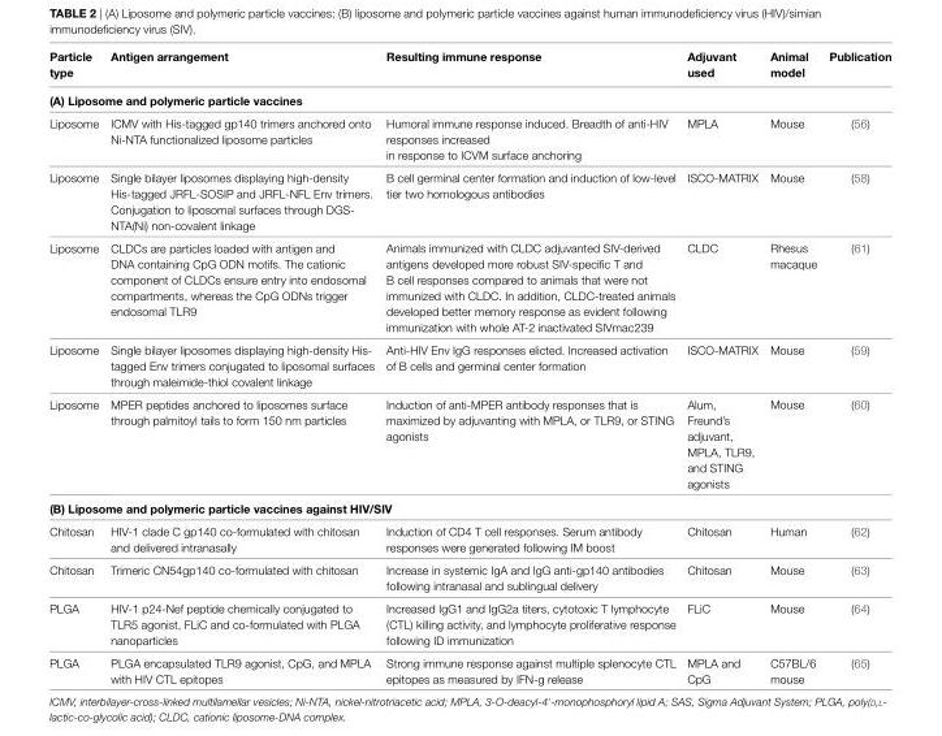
<table><thead><tr><td>Particle type</td><td>Antigen arrangement</td><td>Resulting immune response</td><td>Adjuvant used</td><td>Animal model</td><td>Publication</td></tr></thead><tbody><tr><td colspan="6">(A) Liposome and polymeric particle vaccines</td></tr><tr><td>Liposome</td><td>ICMV with His-tagged gp140 trimers anchored onto Ni-NTA functionalized liposome particles</td><td>Humoral immune response induced. Breadth of anti-HIV responses increased in response to ICVM surface anchoring</td><td>MPLA</td><td>Mouse</td><td>(56)</td></tr><tr><td>Liposome</td><td>Single bilayer liposomes displaying high-density His-tagged JRFL-SOSIP and JRFL-NFL Env trimers. Conjugation to liposomal surfaces through DGS- NTA(Ni) non-covalent linkage</td><td>B cell germinal center formation and induction of low-level tier two homologous antibodies</td><td>ISCO-MATRIX</td><td>Mouse</td><td>(58)</td></tr><tr><td>Liposome</td><td>CLDCs are particles loaded with antigen and DNA containing CpG ODN motifs. The cationic component of CLDCs ensure entry into endosomal compartments, whereas the CpG ODNs trigger endosomal TLR9</td><td>Animals immunized with CLDC adjuvanted SIV-derived antigens developed more robust SIV-specific T and B cell responses compared to animals that were not immunized with CLDC. In addition, CLDC-treated animals developed better memory response as evident following immunization with whole AT-2 inactivated SIVmac239</td><td>CLDC</td><td>Rhesus macaque</td><td>(61)</td></tr><tr><td>Liposome</td><td>Single bilayer liposomes displaying high-density His- tagged Env trimers conjugated to liposomal surfaces through maleimide-thiol covalent linkage</td><td>Anti-HIV Env IgG responses elicted. Increased activation of B cells and germinal center formation</td><td>ISCO-MATRIX</td><td>Mouse</td><td>(59)</td></tr><tr><td>Liposome</td><td>MPER peptides anchored to liposomes surface through palmitoyl tails to form 150 nm particles</td><td>Induction of anti-MPER antibody responses that is maximized by adjuvanting with MPLA, or TLR9, or STING agonists</td><td>Alum, Freund’s adjuvant, MPLA, TLR9, and STING agonists</td><td>Mouse</td><td>(60)</td></tr><tr><td colspan="6">(B) Liposome and polymeric particle vaccines against Hiv/Siv</td></tr><tr><td>Chitosan</td><td>HIV-1 clade C gp140 co-formulated with chitosan and delivered intranasally</td><td>Induction of CD4 T cell responses. Serum antibody responses were generated following IM boost</td><td>Chitosan</td><td>Human</td><td>(62)</td></tr><tr><td>Chitosan</td><td>Trimeric CN54gp140 co-formulated with chitosan</td><td>Increase in systemic IgA and IgG anti-gp140 antibodies following intranasal and sublingual delivery</td><td>Chitosan</td><td>Mouse</td><td>(63)</td></tr><tr><td>PLGA</td><td>HIV-1 p24-Nef peptide chemically conjugated to TLR5 agonist, FLiC and co-formulated with PLGA nanoparticles</td><td>Increased IgG1 and IgG2a titers, cytotoxic T lymphocyte (CTL) killing activity, and lymphocyte proliferative response following ID immunization</td><td>FLiC</td><td>Mouse</td><td>(64)</td></tr><tr><td>PLGA</td><td>PLGA encapsulated TLR9 agonist, CpG, and MPLA with HIV CTL epitopes</td><td>Strong immune response against multiple splenocyte CTL epitopes as measured by IFN-g release</td><td>MPLA and CpG</td><td>C57BL/6 mouse</td><td>(65)</td></tr></tbody></table>